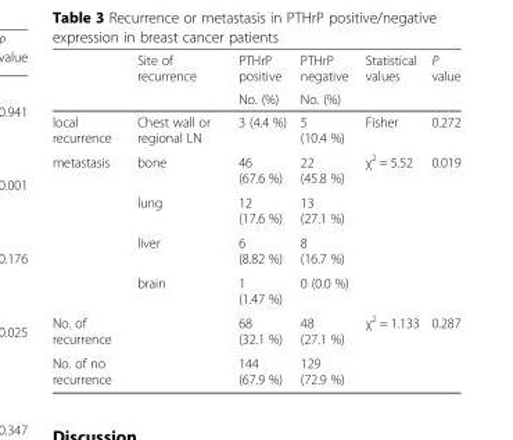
<table><thead><tr><td rowspan="2"></td><td rowspan="2">Site of recurrence</td><td rowspan="2">PTHrP positive No. (%)</td><td rowspan="2">PTHrP negative No. (%)</td><td rowspan="2">Statistical values</td><td rowspan="2">P value</td></tr><tr></tr></thead><tbody><tr><td>local recurrence</td><td>Chest wall or regional LN</td><td>3 (4.4 %)</td><td>5 (10.4 %)</td><td>Fisher</td><td>0.272</td></tr><tr><td rowspan="4">metastasis</td><td>bone</td><td>46 (67.6 %)</td><td>22 (45.8 %)</td><td>χ<sup>2</sup> = 5.52</td><td>0.019</td></tr><tr><td>lung</td><td>12 (17.6 %)</td><td>13 (27.1 %)</td><td></td><td></td></tr><tr><td>liver</td><td>6 (8.82 %)</td><td>8 (16.7 %)</td><td></td><td></td></tr><tr><td>brain</td><td>1 (1.47 %)</td><td>0 (0.0 %)</td><td></td><td></td></tr><tr><td>No. of recurrence</td><td></td><td>68 (32.1 %)</td><td>48 (27.1 %)</td><td>χ<sup>2</sup> = 1.133</td><td>0.287</td></tr><tr><td>No. of no recurrence</td><td></td><td>144 (67.9 %)</td><td>129 (72.9 %)</td><td></td><td></td></tr></tbody></table>